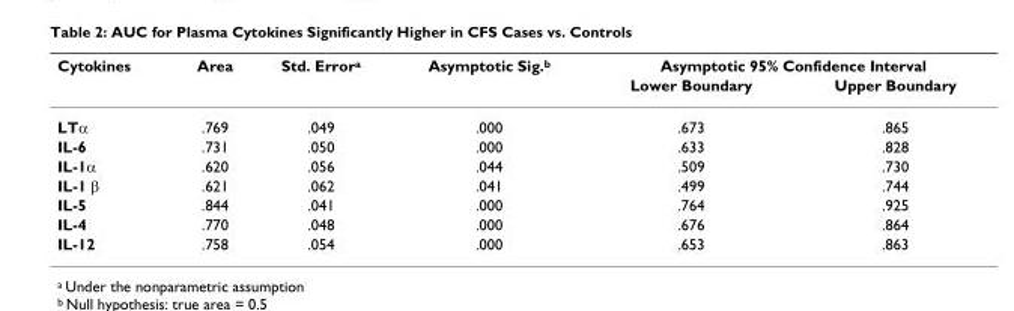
<table><thead><tr><td rowspan="2">Cytokines</td><td rowspan="2">Area</td><td rowspan="2">Std. Error<sup>a</sup></td><td rowspan="2">Asymptotic Sig.<sup>b</sup></td><td colspan="2">Asymptotic 95% Confidence Interval</td></tr><tr><td>Lower Boundary</td><td>Upper Boundary</td></tr></thead><tbody><tr><td>LTα</td><td>.769</td><td>.049</td><td>.000</td><td>.673</td><td>.865</td></tr><tr><td>IL-6</td><td>.731</td><td>.050</td><td>.000</td><td>.633</td><td>.828</td></tr><tr><td>IL-1α</td><td>.620</td><td>.056</td><td>.044</td><td>.509</td><td>.730</td></tr><tr><td>IL-1 β</td><td>.621</td><td>.062</td><td>.041</td><td>.499</td><td>.744</td></tr><tr><td>IL-5</td><td>.844</td><td>.041</td><td>.000</td><td>.764</td><td>.925</td></tr><tr><td>IL-4</td><td>.770</td><td>.048</td><td>.000</td><td>.676</td><td>.864</td></tr><tr><td>IL-12</td><td>.758</td><td>.054</td><td>.000</td><td>.653</td><td>.863</td></tr></tbody></table>